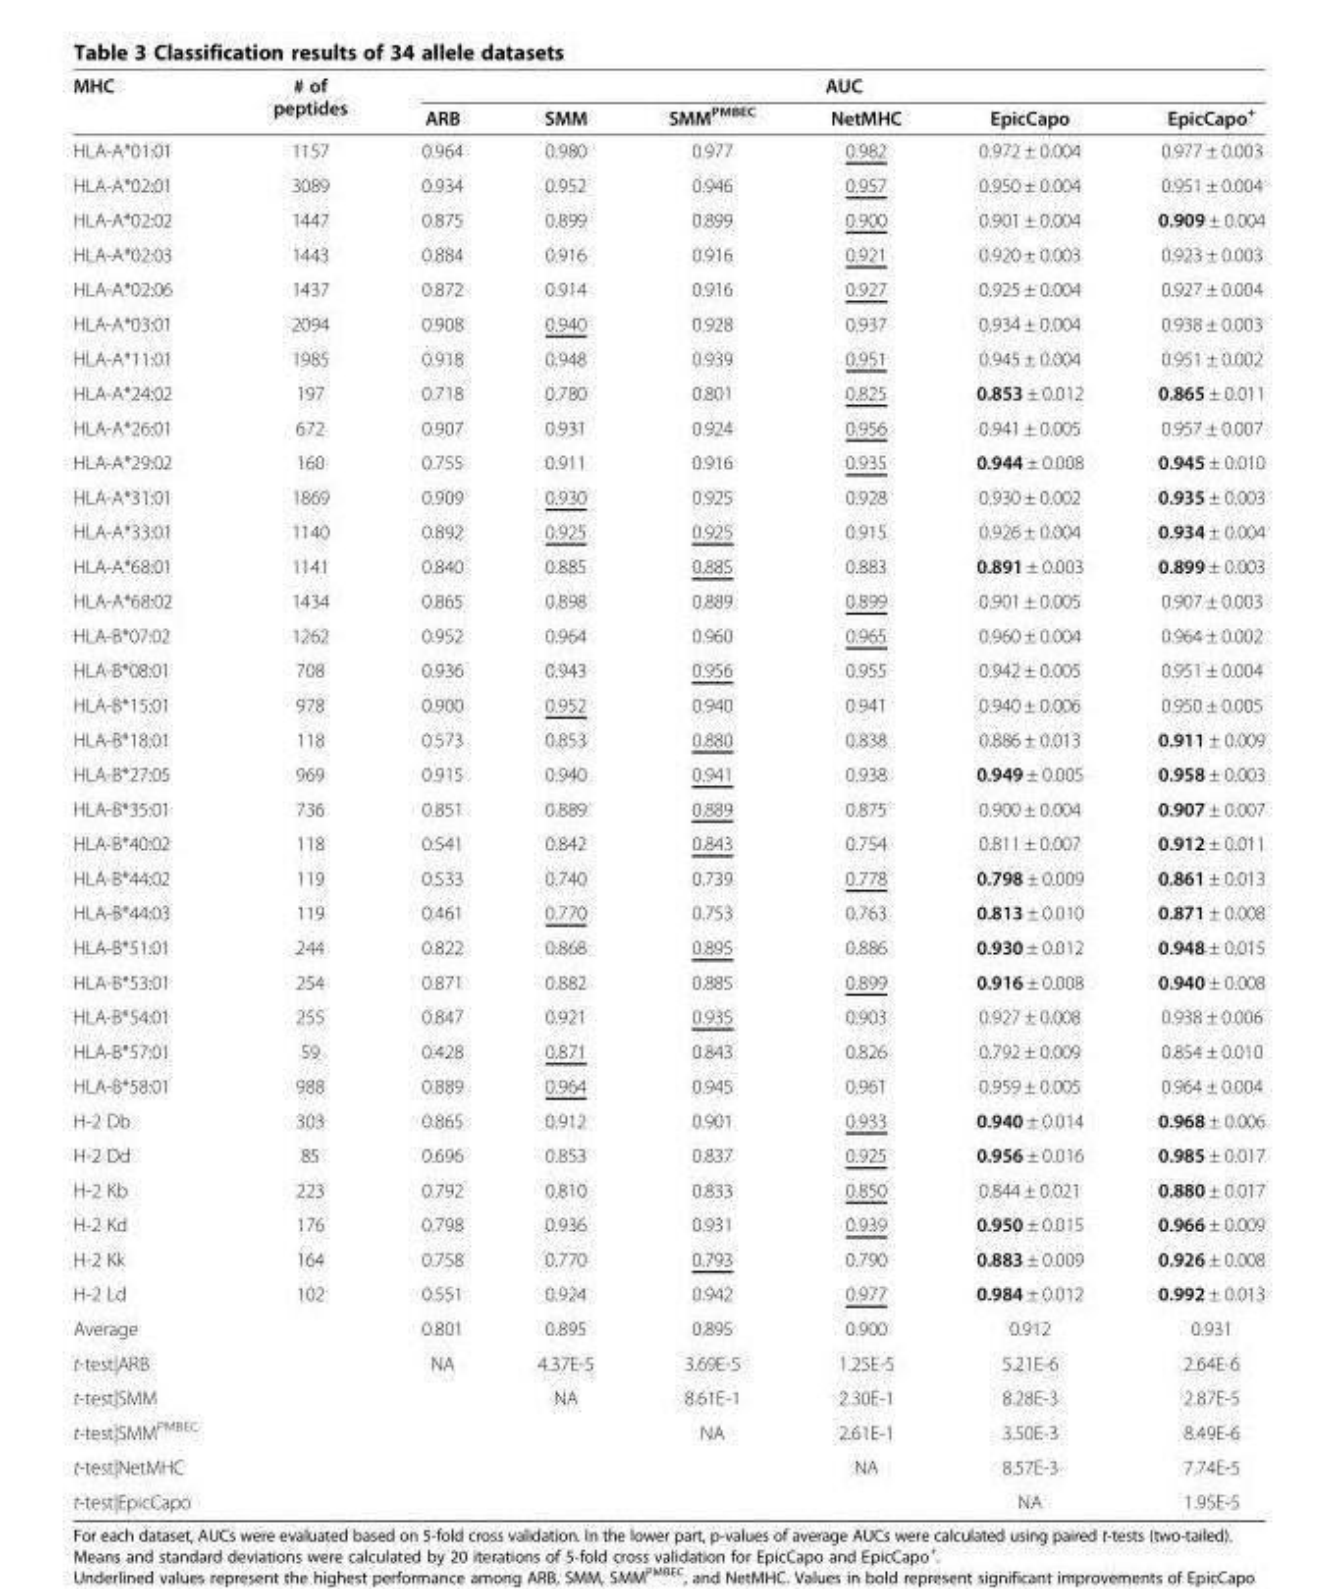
<table><thead><tr><td rowspan="2">MHC</td><td rowspan="2"># of peptides</td><td colspan="6">AUC</td></tr><tr><td>ARB</td><td>SMM</td><td>SMM<sup>PMBEC</sup></td><td>NetMHC</td><td>EpicCapo</td><td>EpicCapo<sup>+</sup></td></tr></thead><tbody><tr><td>HLA-A*01:01</td><td>1157</td><td>0.964</td><td>0.980</td><td>0.977</td><td>0.982</td><td>0.972 ± 0.004</td><td>0.977 ± 0.003</td></tr><tr><td>HLA-A*02:01</td><td>3089</td><td>0.934</td><td>0.952</td><td>0.946</td><td>0.957</td><td>0.950 ± 0.004</td><td>0.951 ± 0.004</td></tr><tr><td>HLA-A*02:02</td><td>1447</td><td>0.875</td><td>0.899</td><td>0.899</td><td>0.900</td><td>0.901 ± 0.004</td><td>0.909 ± 0.004</td></tr><tr><td>HLA-A*02:03</td><td>1443</td><td>0.884</td><td>0.916</td><td>0.916</td><td>0.921</td><td>0.920 ± 0.003</td><td>0.923 ± 0.003</td></tr><tr><td>HLA-A*02:06</td><td>1437</td><td>0.872</td><td>0.914</td><td>0.916</td><td>0.927</td><td>0.925 ± 0.004</td><td>0.927 ± 0.004</td></tr><tr><td>HLA-A*03:01</td><td>2094</td><td>0.908</td><td>0.940</td><td>0.928</td><td>0.937</td><td>0.934 ± 0.004</td><td>0.938 ± 0.003</td></tr><tr><td>HLA-A*11:01</td><td>1985</td><td>0.918</td><td>0.948</td><td>0.939</td><td>0.951</td><td>0.945 ± 0.004</td><td>0.951 ± 0.002</td></tr><tr><td>HLA-A*24:02</td><td>197</td><td>0.718</td><td>0.780</td><td>0.801</td><td>0.825</td><td>0.853 ± 0.012</td><td>0.865 ± 0.011</td></tr><tr><td>HLA-A*26:01</td><td>672</td><td>0.907</td><td>0.931</td><td>0.924</td><td>0.956</td><td>0.941 ± 0.005</td><td>0.957 ± 0.007</td></tr><tr><td>HLA-A*29:02</td><td>160</td><td>0.755</td><td>0.911</td><td>0.916</td><td>0.935</td><td>0.944 ± 0.008</td><td>0.945 ± 0.010</td></tr><tr><td>HLA-A*31:01</td><td>1869</td><td>0.909</td><td>0.930</td><td>0.925</td><td>0.928</td><td>0.930 ± 0.002</td><td>0.935 ± 0.003</td></tr><tr><td>HLA-A*33:01</td><td>1140</td><td>0.892</td><td>0.925</td><td>0.925</td><td>0.915</td><td>0.926 ± 0.004</td><td>0.934 ± 0.004</td></tr><tr><td>HLA-A*68:01</td><td>1141</td><td>0.840</td><td>0.885</td><td>0.885</td><td>0.883</td><td>0.891 ± 0.003</td><td>0.899 ± 0.003</td></tr><tr><td>HLA-A*68:02</td><td>1434</td><td>0.865</td><td>0.898</td><td>0.889</td><td>0.899</td><td>0.901 ± 0.005</td><td>0.907 ± 0.003</td></tr><tr><td>HLA-B*07:02</td><td>1262</td><td>0.952</td><td>0.964</td><td>0.960</td><td>0.965</td><td>0.960 ± 0.004</td><td>0.964 ± 0.002</td></tr><tr><td>HLA-B*08:01</td><td>708</td><td>0.936</td><td>0.943</td><td>0.956</td><td>0.955</td><td>0.942 ± 0.005</td><td>0.951 ± 0.004</td></tr><tr><td>HLA-B*15:01</td><td>978</td><td>0.900</td><td>0.952</td><td>0.940</td><td>0.941</td><td>0.940 ± 0.006</td><td>0.950 ± 0.005</td></tr><tr><td>HLA-B*18:01</td><td>118</td><td>0.573</td><td>0.853</td><td>0.880</td><td>0.838</td><td>0.886 ± 0.013</td><td>0.911 ± 0.009</td></tr><tr><td>HLA-B*27:05</td><td>969</td><td>0.915</td><td>0.940</td><td>0.941</td><td>0.938</td><td>0.949 ± 0.005</td><td>0.958 ± 0.003</td></tr><tr><td>HLA-B*35:01</td><td>736</td><td>0.851</td><td>0.889</td><td>0.889</td><td>0.875</td><td>0.900 ± 0.004</td><td>0.907 ± 0.007</td></tr><tr><td>HLA-B*40:02</td><td>118</td><td>0.541</td><td>0.842</td><td>0.843</td><td>0.754</td><td>0.811 ± 0.007</td><td>0.912 ± 0.011</td></tr><tr><td>HLA-B*44:02</td><td>119</td><td>0.533</td><td>0.740</td><td>0.739</td><td>0.778</td><td>0.798 ± 0.009</td><td>0.861 ± 0.013</td></tr><tr><td>HLA-B*44:03</td><td>119</td><td>0.461</td><td>0.770</td><td>0.753</td><td>0.763</td><td>0.813 ± 0.010</td><td>0.871 ± 0.008</td></tr><tr><td>HLA-B*51:01</td><td>244</td><td>0.822</td><td>0.868</td><td>0.895</td><td>0.886</td><td>0.930 ± 0.012</td><td>0.948 ± 0.015</td></tr><tr><td>HLA-B*53:01</td><td>254</td><td>0.871</td><td>0.882</td><td>0.885</td><td>0.899</td><td>0.916 ± 0.008</td><td>0.940 ± 0.008</td></tr><tr><td>HLA-B*54:01</td><td>255</td><td>0.847</td><td>0.921</td><td>0.935</td><td>0.903</td><td>0.927 ± 0.008</td><td>0.938 ± 0.006</td></tr><tr><td>HLA-B*57:01</td><td>59</td><td>0.428</td><td>0.871</td><td>0.843</td><td>0.826</td><td>0.792 ± 0.009</td><td>0.854 ± 0.010</td></tr><tr><td>HLA-B*58:01</td><td>988</td><td>0.889</td><td>0.964</td><td>0.945</td><td>0.961</td><td>0.959 ± 0.005</td><td>0.964 ± 0.004</td></tr><tr><td>H-2 Db</td><td>303</td><td>0.865</td><td>0.912</td><td>0.901</td><td>0.933</td><td>0.940 ± 0.014</td><td>0.968 ± 0.006</td></tr><tr><td>H-2 Dd</td><td>85</td><td>0.696</td><td>0.853</td><td>0.837</td><td>0.925</td><td>0.956 ± 0.016</td><td>0.985 ± 0.017</td></tr><tr><td>H-2 Kb</td><td>223</td><td>0.792</td><td>0.810</td><td>0.833</td><td>0.850</td><td>0.844 ± 0.021</td><td>0.880 ± 0.017</td></tr><tr><td>H-2 Kd</td><td>176</td><td>0.798</td><td>0.936</td><td>0.931</td><td>0.939</td><td>0.950 ± 0.015</td><td>0.966 ± 0.009</td></tr><tr><td>H-2 Kk</td><td>164</td><td>0.758</td><td>0.770</td><td>0.793</td><td>0.790</td><td>0.883 ± 0.009</td><td>0.926 ± 0.008</td></tr><tr><td>H-2 Ld</td><td>102</td><td>0.551</td><td>0.924</td><td>0.942</td><td>0.977</td><td>0.984 ± 0.012</td><td>0.992 ± 0.013</td></tr><tr><td>Average</td><td></td><td>0.801</td><td>0.895</td><td>0.895</td><td>0.900</td><td>0.912</td><td>0.931</td></tr><tr><td>t-test|ARB</td><td></td><td>NA</td><td>4.37E-5</td><td>3.69E-5</td><td>1.25E-5</td><td>5.21E-6</td><td>2.64E-6</td></tr><tr><td>t-test|SMM</td><td></td><td></td><td>NA</td><td>8.61E-1</td><td>2.30E-1</td><td>8.28E-3</td><td>2.87E-5</td></tr><tr><td>t-test|SMM<sup>PMBEC</sup></td><td></td><td></td><td></td><td>NA</td><td>2.61E-1</td><td>3.50E-3</td><td>8.49E-6</td></tr><tr><td>t-test|NetMHC</td><td></td><td></td><td></td><td></td><td>NA</td><td>8.57E-3</td><td>7.74E-5</td></tr><tr><td>t-test|EpicCapo</td><td></td><td></td><td></td><td></td><td></td><td>NA</td><td>1.95E-5</td></tr></tbody></table>